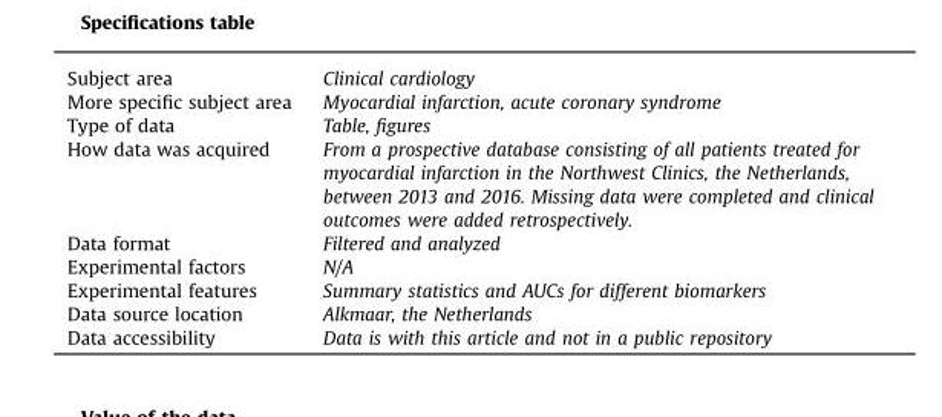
<table><tbody><tr><td>Subject area</td><td>Clinical cardiology</td></tr><tr><td>More specific subject area</td><td>Myocardial infarction, acute coronary syndrome</td></tr><tr><td>Type of data</td><td>Table, figures</td></tr><tr><td>How data was acquired</td><td>From a prospective database consisting of all patients treated for myocardial infarction in the Northwest Clinics, the Netherlands, between 2013 and 2016. Missing data were completed and clinical outcomes were added retrospectively.</td></tr><tr><td>Data format</td><td>Filtered and analyzed</td></tr><tr><td>Experimental factors</td><td>N/A</td></tr><tr><td>Experimental features</td><td>Summary statistics and AUCs for different biomarkers</td></tr><tr><td>Data source location</td><td>Alkmaar, the Netherlands</td></tr><tr><td>Data accessibility</td><td>Data is with this article and not in a public repository</td></tr></tbody></table>